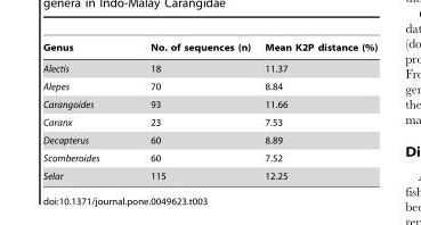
<table><thead><tr><td>Genus</td><td>No. of sequences (n)</td><td>Mean K2P distance (%)</td></tr></thead><tbody><tr><td>Alectis</td><td>18</td><td>11.37</td></tr><tr><td>Alepes</td><td>70</td><td>8.84</td></tr><tr><td>Carangoides</td><td>93</td><td>11.66</td></tr><tr><td>Caranx</td><td>23</td><td>7.53</td></tr><tr><td>Decapterus</td><td>60</td><td>8.89</td></tr><tr><td>Scomberoides</td><td>60</td><td>7.52</td></tr><tr><td>Selar</td><td>115</td><td>12.25</td></tr></tbody></table>